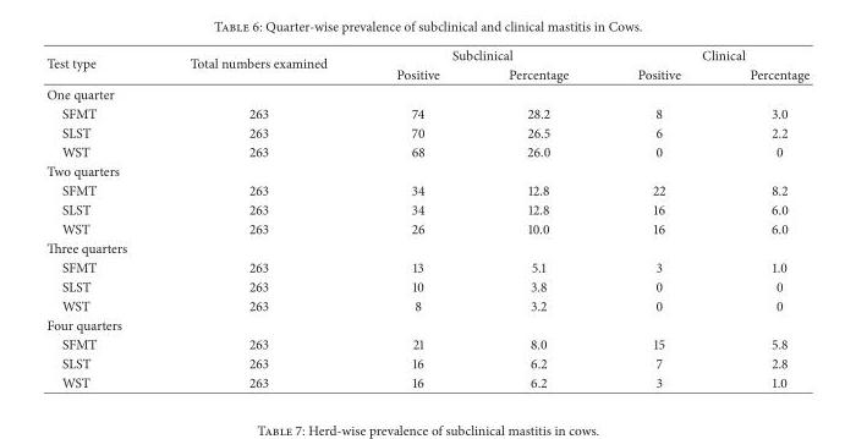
<table><thead><tr><td rowspan="2">Test type</td><td rowspan="2">Total numbers examined</td><td colspan="2">Subclinical</td><td colspan="2">Clinical</td></tr><tr><td>Positive</td><td>Percentage</td><td>Positive</td><td>Percentage</td></tr></thead><tbody><tr><td colspan="6">One quarter</td></tr><tr><td>SFMT</td><td>263</td><td>74</td><td>28.2</td><td>8</td><td>3.0</td></tr><tr><td>SLST</td><td>263</td><td>70</td><td>26.5</td><td>6</td><td>2.2</td></tr><tr><td>WST</td><td>263</td><td>68</td><td>26.0</td><td>0</td><td>0</td></tr><tr><td colspan="6">Two quarters</td></tr><tr><td>SFMT</td><td>263</td><td>34</td><td>12.8</td><td>22</td><td>8.2</td></tr><tr><td>SLST</td><td>263</td><td>34</td><td>12.8</td><td>16</td><td>6.0</td></tr><tr><td>WST</td><td>263</td><td>26</td><td>10.0</td><td>16</td><td>6.0</td></tr><tr><td colspan="6">Three quarters</td></tr><tr><td>SFMT</td><td>263</td><td>13</td><td>5.1</td><td>3</td><td>1.0</td></tr><tr><td>SLST</td><td>263</td><td>10</td><td>3.8</td><td>0</td><td>0</td></tr><tr><td>WST</td><td>263</td><td>8</td><td>3.2</td><td>0</td><td>0</td></tr><tr><td colspan="6">Four quarters</td></tr><tr><td>SFMT</td><td>263</td><td>21</td><td>8.0</td><td>15</td><td>5.8</td></tr><tr><td>SLST</td><td>263</td><td>16</td><td>6.2</td><td>7</td><td>2.8</td></tr><tr><td>WST</td><td>263</td><td>16</td><td>6.2</td><td>3</td><td>1.0</td></tr></tbody></table>